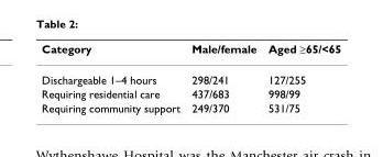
<table><thead><tr><td>Category</td><td>Male/female</td><td>Aged ≥65/&lt;65</td></tr></thead><tbody><tr><td>Dischargeable 1–4 hours</td><td>298/241</td><td>127/255</td></tr><tr><td>Requiring residential care</td><td>437/683</td><td>998/99</td></tr><tr><td>Requiring community support</td><td>249/370</td><td>531/75</td></tr></tbody></table>